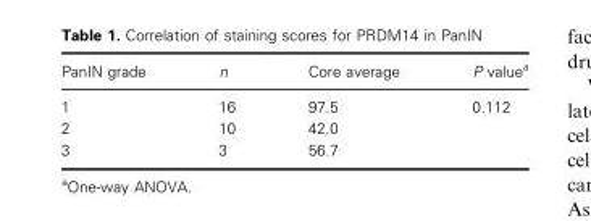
<table><thead><tr><td>PanIN grade</td><td>n</td><td>Core average</td><td>P value<sup>a</sup></td></tr></thead><tbody><tr><td>1</td><td>16</td><td>97.5</td><td>0.112</td></tr><tr><td>2</td><td>10</td><td>42.0</td><td></td></tr><tr><td>3</td><td>3</td><td>56.7</td><td></td></tr></tbody></table>